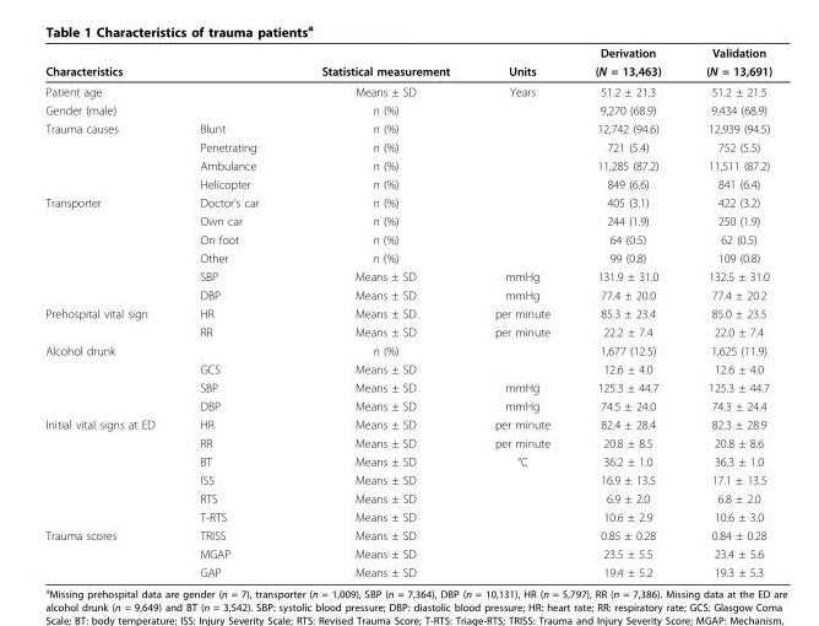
<table><thead><tr><td></td><td></td><td rowspan="2">Statistical measurement</td><td rowspan="2">Units</td><td rowspan="2">Derivation (N = 13,463)</td><td rowspan="2">Validation (N = 13,691)</td></tr><tr><td colspan="2">Characteristics</td></tr></thead><tbody><tr><td>Patient age</td><td></td><td>Means ± SD</td><td>Years</td><td>51.2 ± 21.3</td><td>51.2 ± 21.5</td></tr><tr><td>Gender (male)</td><td></td><td>n (%)</td><td></td><td>9,270 (68.9)</td><td>9,434 (68.9)</td></tr><tr><td rowspan="4">Trauma causes</td><td>Blunt</td><td>n (%)</td><td></td><td>12,742 (94.6)</td><td>12,939 (94.5)</td></tr><tr><td>Penetrating</td><td>n (%)</td><td></td><td>721 (5.4)</td><td>752 (5.5)</td></tr><tr><td>Ambulance</td><td>n (%)</td><td></td><td>11,285 (87.2)</td><td>11,511 (87.2)</td></tr><tr><td>Helicopter</td><td>n (%)</td><td></td><td>849 (6.6)</td><td>841 (6.4)</td></tr><tr><td rowspan="6">Transporter</td><td>Doctor’s car</td><td>n (%)</td><td></td><td>405 (3.1)</td><td>422 (3.2)</td></tr><tr><td>Own car</td><td>n (%)</td><td></td><td>244 (1.9)</td><td>250 (1.9)</td></tr><tr><td>On foot</td><td>n (%)</td><td></td><td>64 (0.5)</td><td>62 (0.5)</td></tr><tr><td>Other</td><td>n (%)</td><td></td><td>99 (0.8)</td><td>109 (0.8)</td></tr><tr><td>SBP</td><td>Means ± SD</td><td>mmHg</td><td>131.9 ± 31.0</td><td>132.5 ± 31.0</td></tr><tr><td>DBP</td><td>Means ± SD</td><td>mmHg</td><td>77.4 ± 20.0</td><td>77.4 ± 20.2</td></tr><tr><td rowspan="2">Prehospital vital sign</td><td>HR</td><td>Means ± SD</td><td>per minute</td><td>85.3 ± 23.4</td><td>85.0 ± 23.5</td></tr><tr><td>RR</td><td>Means ± SD</td><td>per minute</td><td>22.2 ± 7.4</td><td>22.0 ± 7.4</td></tr><tr><td rowspan="4">Alcohol drunk</td><td></td><td>n (%)</td><td></td><td>1,677 (12.5)</td><td>1,625 (11.9)</td></tr><tr><td>GCS</td><td>Means ± SD</td><td></td><td>12.6 ± 4.0</td><td>12.6 ± 4.0</td></tr><tr><td>SBP</td><td>Means ± SD</td><td>mmHg</td><td>125.3 ± 44.7</td><td>125.3 ± 44.7</td></tr><tr><td>DBP</td><td>Means ± SD</td><td>mmHg</td><td>74.5 ± 24.0</td><td>74.3 ± 24.4</td></tr><tr><td rowspan="6">Initial vital signs at ED</td><td>HR</td><td>Means ± SD</td><td>per minute</td><td>82.4 ± 28.4</td><td>82.3 ± 28.9</td></tr><tr><td>RR</td><td>Means ± SD</td><td>per minute</td><td>20.8 ± 8.5</td><td>20.8 ± 8.6</td></tr><tr><td>BT</td><td>Means ± SD</td><td>°C</td><td>36.2 ± 1.0</td><td>36.3 ± 1.0</td></tr><tr><td>ISS</td><td>Means ± SD</td><td></td><td>16.9 ± 13.5</td><td>17.1 ± 13.5</td></tr><tr><td>RTS</td><td>Means ± SD</td><td></td><td>6.9 ± 2.0</td><td>6.8 ± 2.0</td></tr><tr><td>T-RTS</td><td>Means ± SD</td><td></td><td>10.6 ± 2.9</td><td>10.6 ± 3.0</td></tr><tr><td rowspan="3">Trauma scores</td><td>TRISS</td><td>Means ± SD</td><td></td><td>0.85 ± 0.28</td><td>0.84 ± 0.28</td></tr><tr><td>MGAP</td><td>Means ± SD</td><td></td><td>23.5 ± 5.5</td><td>23.4 ± 5.6</td></tr><tr><td>GAP</td><td>Means ± SD</td><td></td><td>19.4 ± 5.2</td><td>19.3 ± 5.3</td></tr></tbody></table>